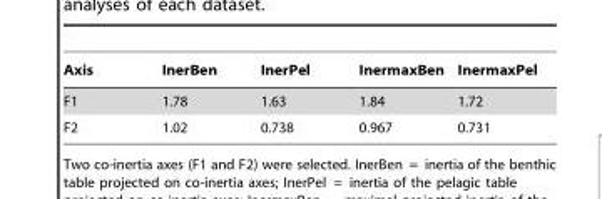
<table><thead><tr><td>Axis</td><td>InerBen</td><td>InerPel</td><td>InermaxBen</td><td>InermaxPel</td></tr></thead><tbody><tr><td>F1</td><td>1.78</td><td>1.63</td><td>1.84</td><td>1.72</td></tr><tr><td>F2</td><td>1.02</td><td>0.738</td><td>0.967</td><td>0.731</td></tr></tbody></table>